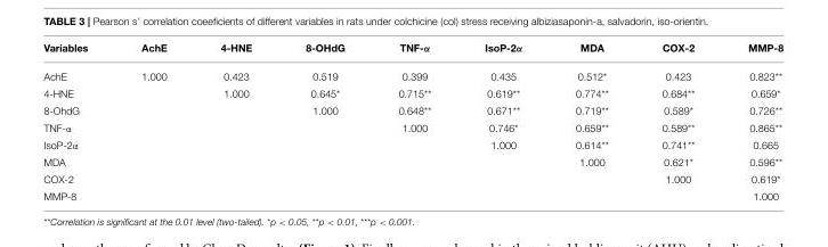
<table><thead><tr><td>Variables</td><td>AchE</td><td>4-HNE</td><td>8-OHdG</td><td>TNF-α</td><td>IsoP-2α</td><td>MDA</td><td>COX-2</td><td>MMP-8</td></tr></thead><tbody><tr><td>AchE</td><td>1.000</td><td>0.423</td><td>0.519</td><td>0.399</td><td>0.435</td><td>0.512*</td><td>0.423</td><td>0.823**</td></tr><tr><td>4-HNE</td><td></td><td>1.000</td><td>0.645*</td><td>0.715**</td><td>0.619**</td><td>0.774**</td><td>0.684**</td><td>0.659*</td></tr><tr><td>8-OhdG</td><td></td><td></td><td>1.000</td><td>0.648**</td><td>0.671**</td><td>0.719**</td><td>0.589*</td><td>0.726**</td></tr><tr><td>TNF-α</td><td></td><td></td><td></td><td>1.000</td><td>0.746*</td><td>0.659**</td><td>0.589**</td><td>0.865**</td></tr><tr><td>IsoP-2α</td><td></td><td></td><td></td><td></td><td>1.000</td><td>0.614**</td><td>0.741**</td><td>0.665</td></tr><tr><td>MDA</td><td></td><td></td><td></td><td></td><td></td><td>1.000</td><td>0.621*</td><td>0.596**</td></tr><tr><td>COX-2</td><td></td><td></td><td></td><td></td><td></td><td></td><td>1.000</td><td>0.619*</td></tr><tr><td>MMP-8</td><td></td><td></td><td></td><td></td><td></td><td></td><td></td><td>1.000</td></tr></tbody></table>